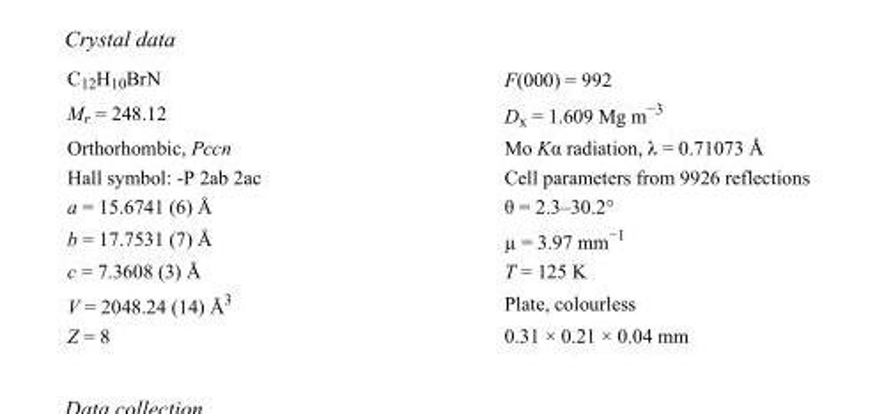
<table><tbody><tr><td>C<sub>12</sub>H<sub>10</sub>BrN</td><td>F(000) = 992</td></tr><tr><td>M<sub>r</sub> = 248.12</td><td>D<sub>x</sub> = 1.609 Mg m<sup>−3</sup></td></tr><tr><td>Orthorhombic, Pccn</td><td>Mo Kα radiation, λ = 0.71073 Å</td></tr><tr><td>Hall symbol: -P 2ab 2ac</td><td>Cell parameters from 9926 reflections</td></tr><tr><td>a = 15.6741 (6) Å</td><td>θ = 2.3–30.2°</td></tr><tr><td>b = 17.7531 (7) Å</td><td>µ = 3.97 mm<sup>−1</sup></td></tr><tr><td>c = 7.3608 (3) Å</td><td>T = 125 K</td></tr><tr><td>V = 2048.24 (14) Å<sup>3</sup></td><td>Plate, colourless</td></tr><tr><td>Z = 8</td><td>0.31 × 0.21 × 0.04 mm</td></tr></tbody></table>